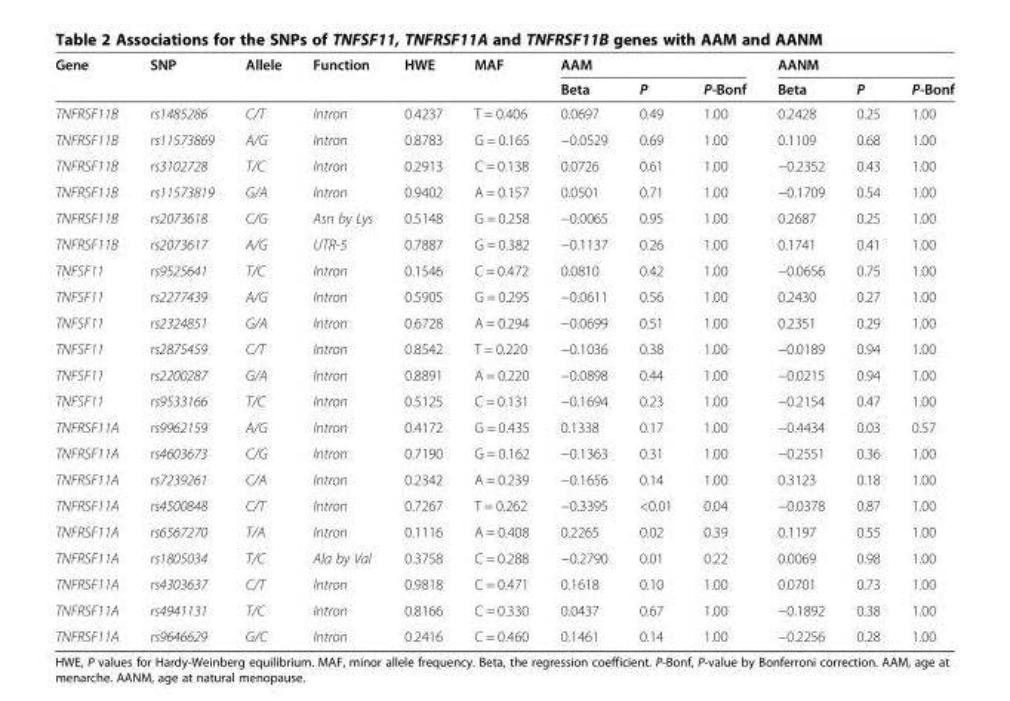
<table><thead><tr><td rowspan="2">Gene</td><td rowspan="2">SNP</td><td rowspan="2">Allele</td><td rowspan="2">Function</td><td rowspan="2">HWE</td><td rowspan="2">MAF</td><td colspan="3">AAM</td><td colspan="3">AANM</td></tr><tr><td>Beta</td><td>P</td><td>P-Bonf</td><td>Beta</td><td>P</td><td>P-Bonf</td></tr></thead><tbody><tr><td>TNFRSF11B</td><td>rs1485286</td><td>C/T</td><td>Intron</td><td>0.4237</td><td>T = 0.406</td><td>0.0697</td><td>0.49</td><td>1.00</td><td>0.2428</td><td>0.25</td><td>1.00</td></tr><tr><td>TNFRSF11B</td><td>rs11573869</td><td>A/G</td><td>Intron</td><td>0.8783</td><td>G = 0.165</td><td>−0.0529</td><td>0.69</td><td>1.00</td><td>0.1109</td><td>0.68</td><td>1.00</td></tr><tr><td>TNFRSF11B</td><td>rs3102728</td><td>T/C</td><td>Intron</td><td>0.2913</td><td>C = 0.138</td><td>0.0726</td><td>0.61</td><td>1.00</td><td>−0.2352</td><td>0.43</td><td>1.00</td></tr><tr><td>TNFRSF11B</td><td>rs11573819</td><td>G/A</td><td>Intron</td><td>0.9402</td><td>A = 0.157</td><td>0.0501</td><td>0.71</td><td>1.00</td><td>−0.1709</td><td>0.54</td><td>1.00</td></tr><tr><td>TNFRSF11B</td><td>rs2073618</td><td>C/G</td><td>Asn by Lys</td><td>0.5148</td><td>G = 0.258</td><td>−0.0065</td><td>0.95</td><td>1.00</td><td>0.2687</td><td>0.25</td><td>1.00</td></tr><tr><td>TNFRSF11B</td><td>rs2073617</td><td>A/G</td><td>UTR-5</td><td>0.7887</td><td>G = 0.382</td><td>−0.1137</td><td>0.26</td><td>1.00</td><td>0.1741</td><td>0.41</td><td>1.00</td></tr><tr><td>TNFSF11</td><td>rs9525641</td><td>T/C</td><td>Intron</td><td>0.1546</td><td>C = 0.472</td><td>0.0810</td><td>0.42</td><td>1.00</td><td>−0.0656</td><td>0.75</td><td>1.00</td></tr><tr><td>TNFSF11</td><td>rs2277439</td><td>A/G</td><td>Intron</td><td>0.5905</td><td>G = 0.295</td><td>−0.0611</td><td>0.56</td><td>1.00</td><td>0.2430</td><td>0.27</td><td>1.00</td></tr><tr><td>TNFSF11</td><td>rs2324851</td><td>G/A</td><td>Intron</td><td>0.6728</td><td>A = 0.294</td><td>−0.0699</td><td>0.51</td><td>1.00</td><td>0.2351</td><td>0.29</td><td>1.00</td></tr><tr><td>TNFSF11</td><td>rs2875459</td><td>C/T</td><td>Intron</td><td>0.8542</td><td>T = 0.220</td><td>−0.1036</td><td>0.38</td><td>1.00</td><td>−0.0189</td><td>0.94</td><td>1.00</td></tr><tr><td>TNFSF11</td><td>rs2200287</td><td>G/A</td><td>Intron</td><td>0.8891</td><td>A = 0.220</td><td>−0.0898</td><td>0.44</td><td>1.00</td><td>−0.0215</td><td>0.94</td><td>1.00</td></tr><tr><td>TNFSF11</td><td>rs9533166</td><td>T/C</td><td>Intron</td><td>0.5125</td><td>C = 0.131</td><td>−0.1694</td><td>0.23</td><td>1.00</td><td>−0.2154</td><td>0.47</td><td>1.00</td></tr><tr><td>TNFRSF11A</td><td>rs9962159</td><td>A/G</td><td>Intron</td><td>0.4172</td><td>G = 0.435</td><td>0.1338</td><td>0.17</td><td>1.00</td><td>−0.4434</td><td>0.03</td><td>0.57</td></tr><tr><td>TNFRSF11A</td><td>rs4603673</td><td>C/G</td><td>Intron</td><td>0.7190</td><td>G = 0.162</td><td>−0.1363</td><td>0.31</td><td>1.00</td><td>−0.2551</td><td>0.36</td><td>1.00</td></tr><tr><td>TNFRSF11A</td><td>rs7239261</td><td>C/A</td><td>Intron</td><td>0.2342</td><td>A = 0.239</td><td>−0.1656</td><td>0.14</td><td>1.00</td><td>0.3123</td><td>0.18</td><td>1.00</td></tr><tr><td>TNFRSF11A</td><td>rs4500848</td><td>C/T</td><td>Intron</td><td>0.7267</td><td>T = 0.262</td><td>−0.3395</td><td>&lt;0.01</td><td>0.04</td><td>−0.0378</td><td>0.87</td><td>1.00</td></tr><tr><td>TNFRSF11A</td><td>rs6567270</td><td>T/A</td><td>Intron</td><td>0.1116</td><td>A = 0.408</td><td>0.2265</td><td>0.02</td><td>0.39</td><td>0.1197</td><td>0.55</td><td>1.00</td></tr><tr><td>TNFRSF11A</td><td>rs1805034</td><td>T/C</td><td>Ala by Val</td><td>0.3758</td><td>C = 0.288</td><td>−0.2790</td><td>0.01</td><td>0.22</td><td>0.0069</td><td>0.98</td><td>1.00</td></tr><tr><td>TNFRSF11A</td><td>rs4303637</td><td>C/T</td><td>Intron</td><td>0.9818</td><td>C = 0.471</td><td>0.1618</td><td>0.10</td><td>1.00</td><td>0.0701</td><td>0.73</td><td>1.00</td></tr><tr><td>TNFRSF11A</td><td>rs4941131</td><td>T/C</td><td>Intron</td><td>0.8166</td><td>C = 0.330</td><td>0.0437</td><td>0.67</td><td>1.00</td><td>−0.1892</td><td>0.38</td><td>1.00</td></tr><tr><td>TNFRSF11A</td><td>rs9646629</td><td>G/C</td><td>Intron</td><td>0.2416</td><td>C = 0.460</td><td>0.1461</td><td>0.14</td><td>1.00</td><td>−0.2256</td><td>0.28</td><td>1.00</td></tr></tbody></table>